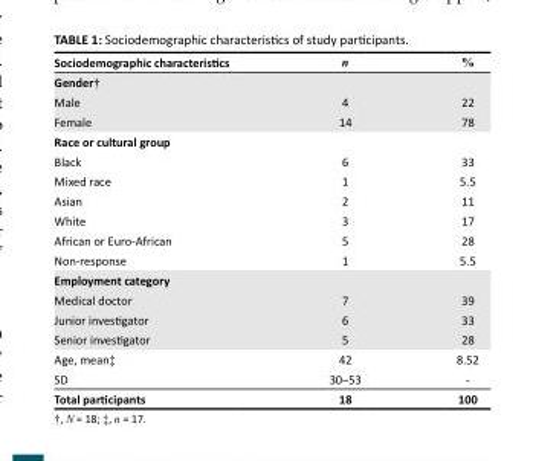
<table><thead><tr><td>Sociodemographic characteristics</td><td>n</td><td>%</td></tr></thead><tbody><tr><td colspan="3">Gender†</td></tr><tr><td>Male</td><td>4</td><td>22</td></tr><tr><td>Female</td><td>14</td><td>78</td></tr><tr><td colspan="3">Race or cultural group</td></tr><tr><td>Black</td><td>6</td><td>33</td></tr><tr><td>Mixed race</td><td>1</td><td>5.5</td></tr><tr><td>Asian</td><td>2</td><td>11</td></tr><tr><td>White</td><td>3</td><td>17</td></tr><tr><td>African or Euro-African</td><td>5</td><td>28</td></tr><tr><td>Non-response</td><td>1</td><td>5.5</td></tr><tr><td colspan="3">Employment category</td></tr><tr><td>Medical doctor</td><td>7</td><td>39</td></tr><tr><td>Junior investigator</td><td>6</td><td>33</td></tr><tr><td>Senior investigator</td><td>5</td><td>28</td></tr><tr><td>Age, mean‡</td><td>42</td><td>8.52</td></tr><tr><td>SD</td><td>30–53</td><td>-</td></tr><tr><td>Total participants</td><td>18</td><td>100</td></tr></tbody></table>